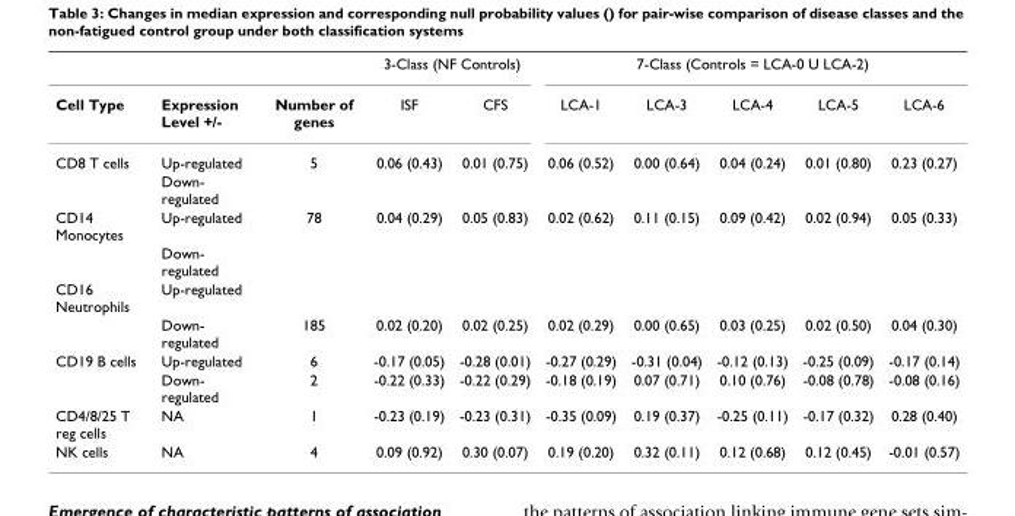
<table><thead><tr><td rowspan="2">Cell Type</td><td rowspan="2">Expression Level +/-</td><td rowspan="2">Number of genes</td><td colspan="2">3-Class (NF Controls)</td><td colspan="5">7-Class (Controls = LCA-0 U LCA-2)</td></tr><tr><td>ISF</td><td>CFS</td><td>LCA-1</td><td>LCA-3</td><td>LCA-4</td><td>LCA-5</td><td>LCA-6</td></tr></thead><tbody><tr><td rowspan="2">CD8 T cells</td><td>Up-regulated</td><td>5</td><td>0.06 (0.43)</td><td>0.01 (0.75)</td><td>0.06 (0.52)</td><td>0.00 (0.64)</td><td>0.04 (0.24)</td><td>0.01 (0.80)</td><td>0.23 (0.27)</td></tr><tr><td>Down- regulated</td><td></td><td></td><td></td><td></td><td></td><td></td><td></td><td></td></tr><tr><td rowspan="2">CD14 Monocytes</td><td>Up-regulated</td><td>78</td><td>0.04 (0.29)</td><td>0.05 (0.83)</td><td>0.02 (0.62)</td><td>0.11 (0.15)</td><td>0.09 (0.42)</td><td>0.02 (0.94)</td><td>0.05 (0.33)</td></tr><tr><td>Down- regulated</td><td></td><td></td><td></td><td></td><td></td><td></td><td></td><td></td></tr><tr><td rowspan="2">CD16 Neutrophils</td><td>Up-regulated</td><td></td><td></td><td></td><td></td><td></td><td></td><td></td><td></td></tr><tr><td>Down- regulated</td><td>185</td><td>0.02 (0.20)</td><td>0.02 (0.25)</td><td>0.02 (0.29)</td><td>0.00 (0.65)</td><td>0.03 (0.25)</td><td>0.02 (0.50)</td><td>0.04 (0.30)</td></tr><tr><td rowspan="2">CD19 B cells</td><td>Up-regulated</td><td>6</td><td>-0.17 (0.05)</td><td>-0.28 (0.01)</td><td>-0.27 (0.29)</td><td>-0.31 (0.04)</td><td>-0.12 (0.13)</td><td>-0.25 (0.09)</td><td>-0.17 (0.14)</td></tr><tr><td>Down- regulated</td><td>2</td><td>-0.22 (0.33)</td><td>-0.22 (0.29)</td><td>-0.18 (0.19)</td><td>0.07 (0.71)</td><td>0.10 (0.76)</td><td>-0.08 (0.78)</td><td>-0.08 (0.16)</td></tr><tr><td>CD4/8/25 T reg cells</td><td>NA</td><td>1</td><td>-0.23 (0.19)</td><td>-0.23 (0.31)</td><td>-0.35 (0.09)</td><td>0.19 (0.37)</td><td>-0.25 (0.11)</td><td>-0.17 (0.32)</td><td>0.28 (0.40)</td></tr><tr><td>NK cells</td><td>NA</td><td>4</td><td>0.09 (0.92)</td><td>0.30 (0.07)</td><td>0.19 (0.20)</td><td>0.32 (0.11)</td><td>0.12 (0.68)</td><td>0.12 (0.45)</td><td>-0.01 (0.57)</td></tr></tbody></table>